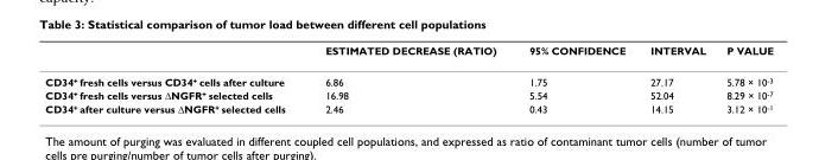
<table><thead><tr><td></td><td>ESTIMATED DECREASE (RATIO)</td><td>95% CONFIDENCE</td><td>INTERVAL</td><td>P VALUE</td></tr></thead><tbody><tr><td>CD34<sup>+</sup> fresh cells versus CD34<sup>+</sup> cells after culture</td><td>6.86</td><td>1.75</td><td>27.17</td><td>5.78 × 10<sup>-3</sup></td></tr><tr><td>CD34<sup>+</sup> fresh cells versus ΔNGFR<sup>+</sup> selected cells</td><td>16.98</td><td>5.54</td><td>52.04</td><td>8.29 × 10<sup>-7</sup></td></tr><tr><td>CD34<sup>+</sup> after culture versus ΔNGFR<sup>+</sup> selected cells</td><td>2.46</td><td>0.43</td><td>14.15</td><td>3.12 × 10<sup>-1</sup></td></tr></tbody></table>